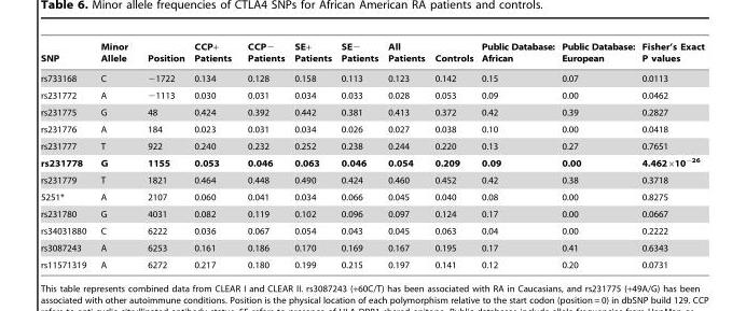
<table><thead><tr><td>SNP</td><td>Minor Allele</td><td>Position</td><td>CCP+ Patients</td><td>CCP− Patients</td><td>SE+ Patients</td><td>SE− Patients</td><td>All Patients</td><td>Controls</td><td>Public Database: African</td><td>Public Database: European</td><td>Fisher’s Exact P values</td></tr></thead><tbody><tr><td>rs733168</td><td>C</td><td>−1722</td><td>0.134</td><td>0.128</td><td>0.158</td><td>0.113</td><td>0.123</td><td>0.142</td><td>0.15</td><td>0.07</td><td>0.0113</td></tr><tr><td>rs231772</td><td>A</td><td>−1113</td><td>0.030</td><td>0.031</td><td>0.034</td><td>0.033</td><td>0.028</td><td>0.053</td><td>0.09</td><td>0.00</td><td>0.0462</td></tr><tr><td>rs231775</td><td>G</td><td>48</td><td>0.424</td><td>0.392</td><td>0.442</td><td>0.381</td><td>0.413</td><td>0.372</td><td>0.42</td><td>0.39</td><td>0.2827</td></tr><tr><td>rs231776</td><td>A</td><td>184</td><td>0.023</td><td>0.031</td><td>0.034</td><td>0.026</td><td>0.027</td><td>0.038</td><td>0.10</td><td>0.00</td><td>0.0418</td></tr><tr><td>rs231777</td><td>T</td><td>922</td><td>0.240</td><td>0.232</td><td>0.252</td><td>0.238</td><td>0.244</td><td>0.220</td><td>0.13</td><td>0.27</td><td>0.7651</td></tr><tr><td>rs231778</td><td>G</td><td>1155</td><td>0.053</td><td>0.046</td><td>0.063</td><td>0.046</td><td>0.054</td><td>0.209</td><td>0.09</td><td>0.00</td><td>4.462×10−26</td></tr><tr><td>rs231779</td><td>T</td><td>1821</td><td>0.464</td><td>0.448</td><td>0.490</td><td>0.424</td><td>0.460</td><td>0.452</td><td>0.42</td><td>0.38</td><td>0.3718</td></tr><tr><td>5251*</td><td>A</td><td>2107</td><td>0.060</td><td>0.041</td><td>0.034</td><td>0.066</td><td>0.045</td><td>0.040</td><td>0.08</td><td>0.00</td><td>0.8275</td></tr><tr><td>rs231780</td><td>G</td><td>4031</td><td>0.082</td><td>0.119</td><td>0.102</td><td>0.096</td><td>0.097</td><td>0.124</td><td>0.17</td><td>0.00</td><td>0.0667</td></tr><tr><td>rs34031880</td><td>C</td><td>6222</td><td>0.036</td><td>0.067</td><td>0.054</td><td>0.043</td><td>0.045</td><td>0.063</td><td>0.04</td><td>0.00</td><td>0.2222</td></tr><tr><td>rs3087243</td><td>A</td><td>6253</td><td>0.161</td><td>0.186</td><td>0.170</td><td>0.169</td><td>0.167</td><td>0.195</td><td>0.17</td><td>0.41</td><td>0.6343</td></tr><tr><td>rs11571319</td><td>A</td><td>6272</td><td>0.217</td><td>0.180</td><td>0.199</td><td>0.215</td><td>0.197</td><td>0.141</td><td>0.12</td><td>0.20</td><td>0.0731</td></tr></tbody></table>